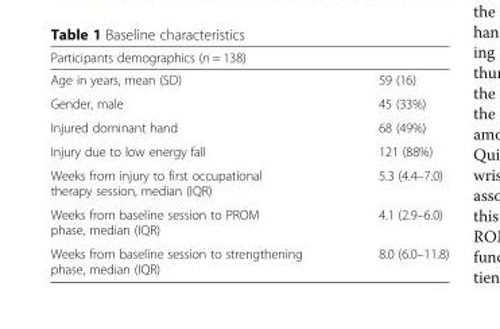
<table><thead><tr><td colspan="2">Participants demographics (n = 138)</td></tr><tr><td>Age in years, mean (SD)</td><td>59 (16)</td></tr></thead><tbody><tr><td>Gender, male</td><td>45 (33%)</td></tr><tr><td>Injured dominant hand</td><td>68 (49%)</td></tr><tr><td>Injury due to low energy fall</td><td>121 (88%)</td></tr><tr><td>Weeks from injury to first occupational therapy session, median (IQR)</td><td>5.3 (4.4–7.0)</td></tr><tr><td>Weeks from baseline session to PROM phase, median (IQR)</td><td>4.1 (2.9–6.0)</td></tr><tr><td>Weeks from baseline session to strengthening phase, median (IQR)</td><td>8.0 (6.0–11.8)</td></tr></tbody></table>